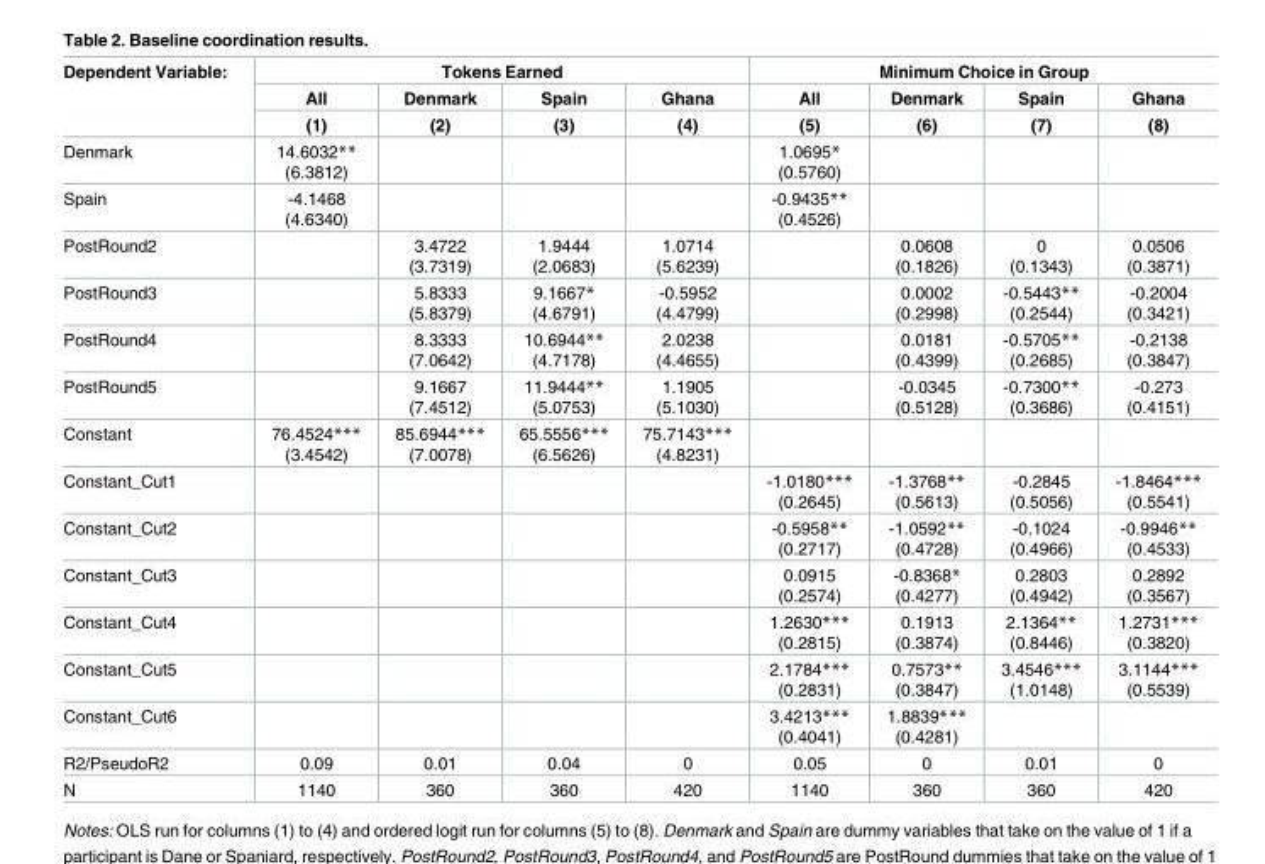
<table><thead><tr><td rowspan="3">Dependent Variable:</td><td colspan="4">Tokens Earned</td><td colspan="4">Minimum Choice in Group</td></tr><tr><td rowspan="2">All (1)</td><td rowspan="2">Denmark (2)</td><td rowspan="2">Spain (3)</td><td rowspan="2">Ghana (4)</td><td rowspan="2">All (5)</td><td rowspan="2">Denmark (6)</td><td rowspan="2">Spain (7)</td><td rowspan="2">Ghana (8)</td></tr><tr></tr></thead><tbody><tr><td>Denmark</td><td>14.6032** (6.3812)</td><td></td><td></td><td></td><td>1.0695* (0.5760)</td><td></td><td></td><td></td></tr><tr><td>Spain</td><td>-4.1468 (4.6340)</td><td></td><td></td><td></td><td>-0.9435** (0.4526)</td><td></td><td></td><td></td></tr><tr><td>PostRound2</td><td></td><td>3.4722 (3.7319)</td><td>1.9444 (2.0683)</td><td>1.0714 (5.6239)</td><td></td><td>0.0608 (0.1826)</td><td>0 (0.1343)</td><td>0.0506 (0.3871)</td></tr><tr><td>PostRound3</td><td></td><td>5.8333 (5.8379)</td><td>9.1667* (4.6791)</td><td>-0.5952 (4.4799)</td><td></td><td>0.0002 (0.2998)</td><td>-0.5443** (0.2544)</td><td>-0.2004 (0.3421)</td></tr><tr><td>PostRound4</td><td></td><td>8.3333 (7.0642)</td><td>10.6944** (4.7178)</td><td>2.0238 (4.4655)</td><td></td><td>0.0181 (0.4399)</td><td>-0.5705** (0.2685)</td><td>-0.2138 (0.3847)</td></tr><tr><td>PostRound5</td><td></td><td>9.1667 (7.4512)</td><td>11.9444** (5.0753)</td><td>1.1905 (5.1030)</td><td></td><td>-0.0345 (0.5128)</td><td>-0.7300** (0.3686)</td><td>-0.273 (0.4151)</td></tr><tr><td>Constant</td><td>76.4524*** (3.4542)</td><td>85.6944*** (7.0078)</td><td>65.5556*** (6.5626)</td><td>75.7143*** (4.8231)</td><td></td><td></td><td></td><td></td></tr><tr><td>Constant_Cut1</td><td></td><td></td><td></td><td></td><td>-1.0180*** (0.2645)</td><td>-1.3768** (0.5613)</td><td>-0.2845 (0.5056)</td><td>-1.8464*** (0.5541)</td></tr><tr><td>Constant_Cut2</td><td></td><td></td><td></td><td></td><td>-0.5958** (0.2717)</td><td>-1.0592** (0.4728)</td><td>-0.1024 (0.4966)</td><td>-0.9946** (0.4533)</td></tr><tr><td>Constant_Cut3</td><td></td><td></td><td></td><td></td><td>0.0915 (0.2574)</td><td>-0.8368* (0.4277)</td><td>0.2803 (0.4942)</td><td>0.2892 (0.3567)</td></tr><tr><td>Constant_Cut4</td><td></td><td></td><td></td><td></td><td>1.2630*** (0.2815)</td><td>0.1913 (0.3874)</td><td>2.1364** (0.8446)</td><td>1.2731*** (0.3820)</td></tr><tr><td>Constant_Cut5</td><td></td><td></td><td></td><td></td><td>2.1784*** (0.2831)</td><td>0.7573** (0.3847)</td><td>3.4546*** (1.0148)</td><td>3.1144*** (0.5539)</td></tr><tr><td>Constant_Cut6</td><td></td><td></td><td></td><td></td><td>3.4213*** (0.4041)</td><td>1.8839*** (0.4281)</td><td></td><td></td></tr><tr><td>R2/PseudoR2</td><td>0.09</td><td>0.01</td><td>0.04</td><td>0</td><td>0.05</td><td>0</td><td>0.01</td><td>0</td></tr><tr><td>N</td><td>1140</td><td>360</td><td>360</td><td>420</td><td>1140</td><td>360</td><td>360</td><td>420</td></tr></tbody></table>